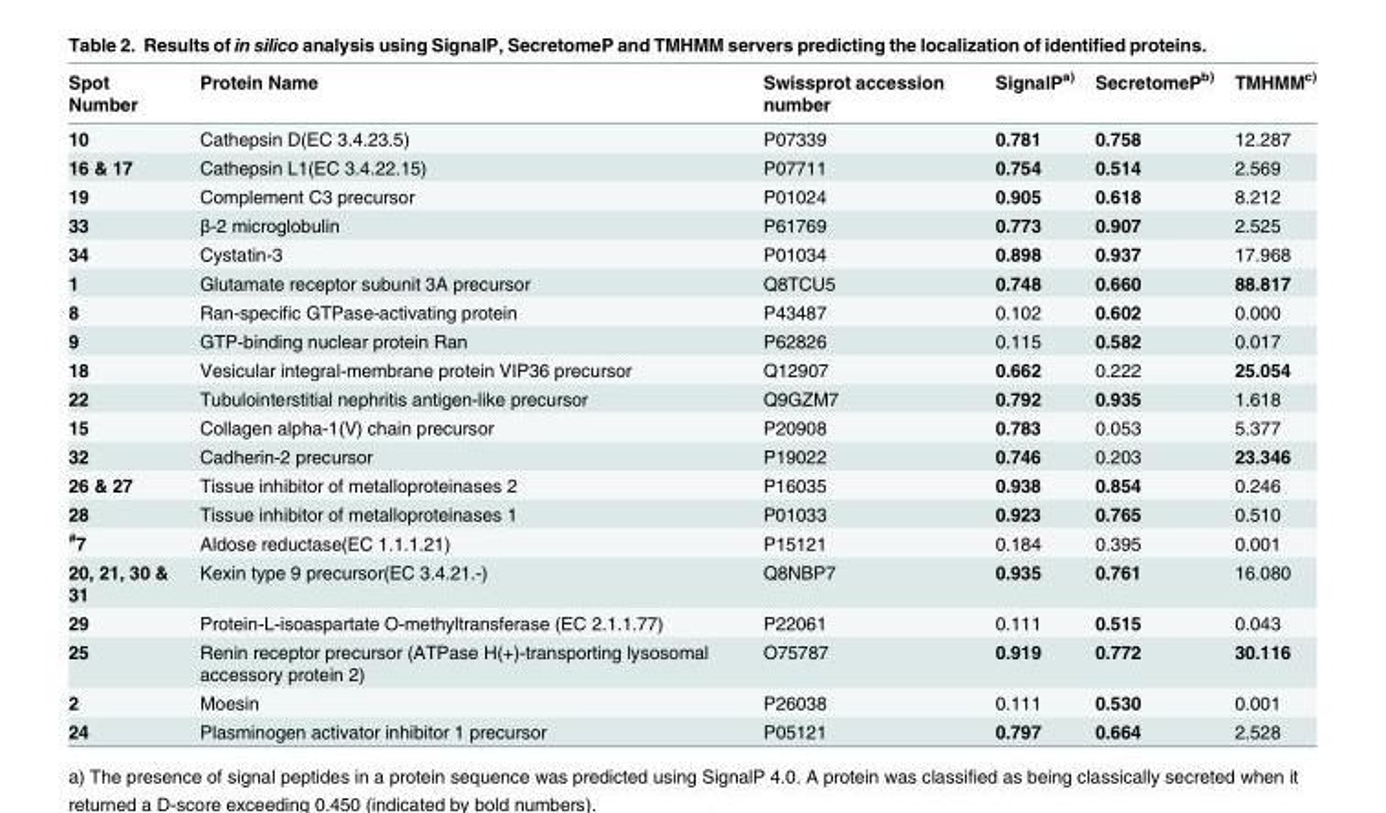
<table><thead><tr><td>Spot Number</td><td>Protein Name</td><td>Swissprot accession number</td><td>SignalP<sup>a)</sup></td><td>SecretomeP<sup>b)</sup></td><td>TMHMM<sup>c)</sup></td></tr></thead><tbody><tr><td>10</td><td>Cathepsin D(EC 3.4.23.5)</td><td>P07339</td><td>0.781</td><td>0.758</td><td>12.287</td></tr><tr><td>16 &amp; 17</td><td>Cathepsin L1(EC 3.4.22.15)</td><td>P07711</td><td>0.754</td><td>0.514</td><td>2.569</td></tr><tr><td>19</td><td>Complement C3 precursor</td><td>P01024</td><td>0.905</td><td>0.618</td><td>8.212</td></tr><tr><td>33</td><td>β-2 microglobulin</td><td>P61769</td><td>0.773</td><td>0.907</td><td>2.525</td></tr><tr><td>34</td><td>Cystatin-3</td><td>P01034</td><td>0.898</td><td>0.937</td><td>17.968</td></tr><tr><td>1</td><td>Glutamate receptor subunit 3A precursor</td><td>Q8TCU5</td><td>0.748</td><td>0.660</td><td>88.817</td></tr><tr><td>8</td><td>Ran-specific GTPase-activating protein</td><td>P43487</td><td>0.102</td><td>0.602</td><td>0.000</td></tr><tr><td>9</td><td>GTP-binding nuclear protein Ran</td><td>P62826</td><td>0.115</td><td>0.582</td><td>0.017</td></tr><tr><td>18</td><td>Vesicular integral-membrane protein VIP36 precursor</td><td>Q12907</td><td>0.662</td><td>0.222</td><td>25.054</td></tr><tr><td>22</td><td>Tubulointerstitial nephritis antigen-like precursor</td><td>Q9GZM7</td><td>0.792</td><td>0.935</td><td>1.618</td></tr><tr><td>15</td><td>Collagen alpha-1(V) chain precursor</td><td>P20908</td><td>0.783</td><td>0.053</td><td>5.377</td></tr><tr><td>32</td><td>Cadherin-2 precursor</td><td>P19022</td><td>0.746</td><td>0.203</td><td>23.346</td></tr><tr><td>26 &amp; 27</td><td>Tissue inhibitor of metalloproteinases 2</td><td>P16035</td><td>0.938</td><td>0.854</td><td>0.246</td></tr><tr><td>28</td><td>Tissue inhibitor of metalloproteinases 1</td><td>P01033</td><td>0.923</td><td>0.765</td><td>0.510</td></tr><tr><td><sup>#</sup>7</td><td>Aldose reductase(EC 1.1.1.21)</td><td>P15121</td><td>0.184</td><td>0.395</td><td>0.001</td></tr><tr><td>20, 21, 30 &amp; 31</td><td>Kexin type 9 precursor(EC 3.4.21.-)</td><td>Q8NBP7</td><td>0.935</td><td>0.761</td><td>16.080</td></tr><tr><td>29</td><td>Protein-L-isoaspartate O-methyltransferase (EC 2.1.1.77)</td><td>P22061</td><td>0.111</td><td>0.515</td><td>0.043</td></tr><tr><td>25</td><td>Renin receptor precursor (ATPase H(+)-transporting lysosomal accessory protein 2)</td><td>O75787</td><td>0.919</td><td>0.772</td><td>30.116</td></tr><tr><td>2</td><td>Moesin</td><td>P26038</td><td>0.111</td><td>0.530</td><td>0.001</td></tr><tr><td>24</td><td>Plasminogen activator inhibitor 1 precursor</td><td>P05121</td><td>0.797</td><td>0.664</td><td>2.528</td></tr></tbody></table>